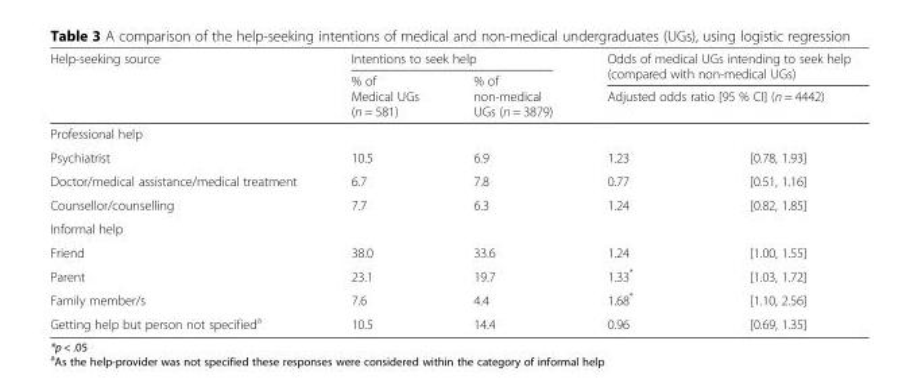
<table><thead><tr><td rowspan="3">Help-seeking source</td><td colspan="2">Intentions to seek help</td><td rowspan="3" colspan="2">Odds of medical UGs intending to seek help (compared with non-medical UGs) Adjusted odds ratio [95 % CI] (n = 4442)</td></tr><tr><td rowspan="2">% of Medical UGs (n = 581)</td><td rowspan="2">% of non-medical UGs (n = 3879)</td></tr><tr></tr><tr><td colspan="5">Professional help</td></tr><tr><td>Psychiatrist</td><td>10.5</td><td>6.9</td><td>1.23</td><td>[0.78, 1.93]</td></tr></thead><tbody><tr><td>Doctor/medical assistance/medical treatment</td><td>6.7</td><td>7.8</td><td>0.77</td><td>[0.51, 1.16]</td></tr><tr><td>Counsellor/counselling</td><td>7.7</td><td>6.3</td><td>1.24</td><td>[0.82, 1.85]</td></tr><tr><td colspan="5">Informal help</td></tr><tr><td>Friend</td><td>38.0</td><td>33.6</td><td>1.24</td><td>[1.00, 1.55]</td></tr><tr><td>Parent</td><td>23.1</td><td>19.7</td><td>1.33*</td><td>[1.03, 1.72]</td></tr><tr><td>Family member/s</td><td>7.6</td><td>4.4</td><td>1.68*</td><td>[1.10, 2.56]</td></tr><tr><td>Getting help but person not specified<sup>a</sup></td><td>10.5</td><td>14.4</td><td>0.96</td><td>[0.69, 1.35]</td></tr></tbody></table>